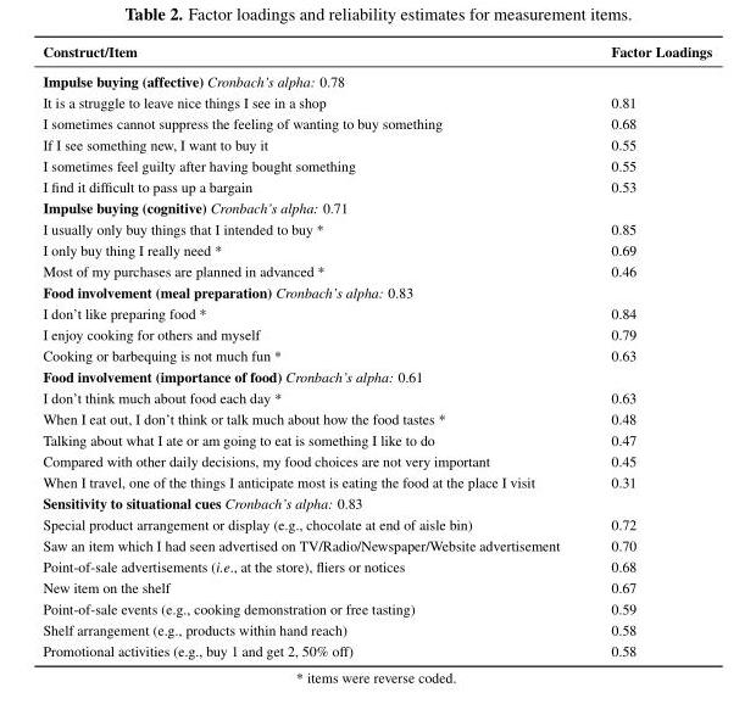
<table><thead><tr><td>Construct/Item</td><td>Factor Loadings</td></tr></thead><tbody><tr><td colspan="2">Impulse buying (affective) Cronbach’s alpha: 0.78</td></tr><tr><td>It is a struggle to leave nice things I see in a shop</td><td>0.81</td></tr><tr><td>I sometimes cannot suppress the feeling of wanting to buy something</td><td>0.68</td></tr><tr><td>If I see something new, I want to buy it</td><td>0.55</td></tr><tr><td>I sometimes feel guilty after having bought something</td><td>0.55</td></tr><tr><td>I find it difficult to pass up a bargain</td><td>0.53</td></tr><tr><td colspan="2">Impulse buying (cognitive) Cronbach’s alpha: 0.71</td></tr><tr><td>I usually only buy things that I intended to buy *</td><td>0.85</td></tr><tr><td>I only buy thing I really need *</td><td>0.69</td></tr><tr><td>Most of my purchases are planned in advanced *</td><td>0.46</td></tr><tr><td colspan="2">Food involvement (meal preparation) Cronbach’s alpha: 0.83</td></tr><tr><td>I don’t like preparing food *</td><td>0.84</td></tr><tr><td>I enjoy cooking for others and myself</td><td>0.79</td></tr><tr><td>Cooking or barbequing is not much fun *</td><td>0.63</td></tr><tr><td colspan="2">Food involvement (importance of food) Cronbach’s alpha: 0.61</td></tr><tr><td>I don’t think much about food each day *</td><td>0.63</td></tr><tr><td>When I eat out, I don’t think or talk much about how the food tastes *</td><td>0.48</td></tr><tr><td>Talking about what I ate or am going to eat is something I like to do</td><td>0.47</td></tr><tr><td>Compared with other daily decisions, my food choices are not very important</td><td>0.45</td></tr><tr><td>When I travel, one of the things I anticipate most is eating the food at the place I visit</td><td>0.31</td></tr><tr><td colspan="2">Sensitivity to situational cues Cronbach’s alpha: 0.83</td></tr><tr><td>Special product arrangement or display (e.g., chocolate at end of aisle bin)</td><td>0.72</td></tr><tr><td>Saw an item which I had seen advertised on TV/Radio/Newspaper/Website advertisement</td><td>0.70</td></tr><tr><td>Point-of-sale advertisements (i.e., at the store), fliers or notices</td><td>0.68</td></tr><tr><td>New item on the shelf</td><td>0.67</td></tr><tr><td>Point-of-sale events (e.g., cooking demonstration or free tasting)</td><td>0.59</td></tr><tr><td>Shelf arrangement (e.g., products within hand reach)</td><td>0.58</td></tr><tr><td>Promotional activities (e.g., buy 1 and get 2, 50% off)</td><td>0.58</td></tr></tbody></table>